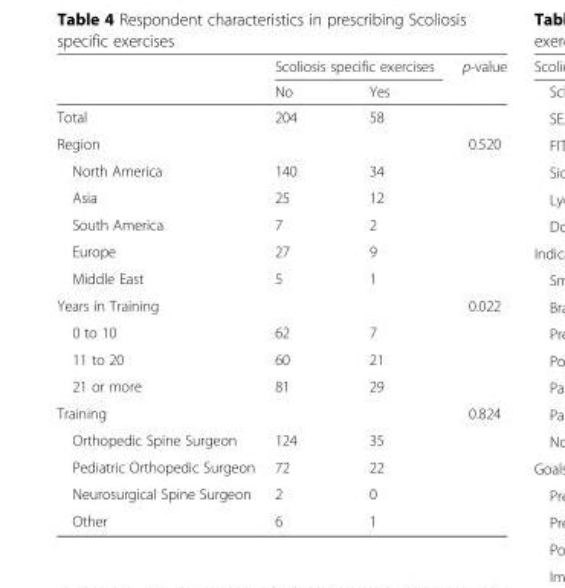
<table><thead><tr><td rowspan="2"></td><td colspan="2">Scoliosis specific exercises</td><td rowspan="2">p-value</td></tr><tr><td>No</td><td>Yes</td></tr></thead><tbody><tr><td>Total</td><td>204</td><td>58</td><td></td></tr><tr><td>Region</td><td></td><td></td><td>0.520</td></tr><tr><td>North America</td><td>140</td><td>34</td><td></td></tr><tr><td>Asia</td><td>25</td><td>12</td><td></td></tr><tr><td>South America</td><td>7</td><td>2</td><td></td></tr><tr><td>Europe</td><td>27</td><td>9</td><td></td></tr><tr><td>Middle East</td><td>5</td><td>1</td><td></td></tr><tr><td>Years in Training</td><td></td><td></td><td>0.022</td></tr><tr><td>0 to 10</td><td>62</td><td>7</td><td></td></tr><tr><td>11 to 20</td><td>60</td><td>21</td><td></td></tr><tr><td>21 or more</td><td>81</td><td>29</td><td></td></tr><tr><td>Training</td><td></td><td></td><td>0.824</td></tr><tr><td>Orthopedic Spine Surgeon</td><td>124</td><td>35</td><td></td></tr><tr><td>Pediatric Orthopedic Surgeon</td><td>72</td><td>22</td><td></td></tr><tr><td>Neurosurgical Spine Surgeon</td><td>2</td><td>0</td><td></td></tr><tr><td>Other</td><td>6</td><td>1</td><td></td></tr></tbody></table>